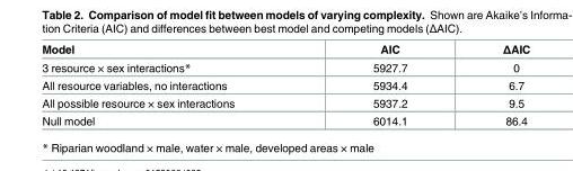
<table><thead><tr><td>Model</td><td>AIC</td><td>ΔAIC</td></tr></thead><tbody><tr><td>3 resource × sex interactions*</td><td>5927.7</td><td>0</td></tr><tr><td>All resource variables, no interactions</td><td>5934.4</td><td>6.7</td></tr><tr><td>All possible resource × sex interactions</td><td>5937.2</td><td>9.5</td></tr><tr><td>Null model</td><td>6014.1</td><td>86.4</td></tr></tbody></table>